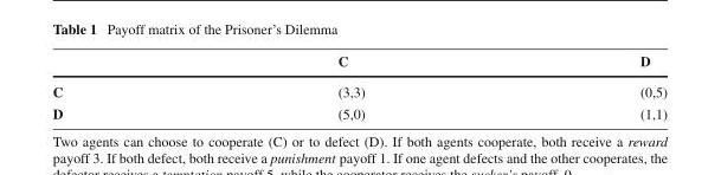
<table><thead><tr><td></td><td>C</td><td>D</td></tr></thead><tbody><tr><td>C</td><td>(3,3)</td><td>(0,5)</td></tr><tr><td>D</td><td>(5,0)</td><td>(1,1)</td></tr></tbody></table>